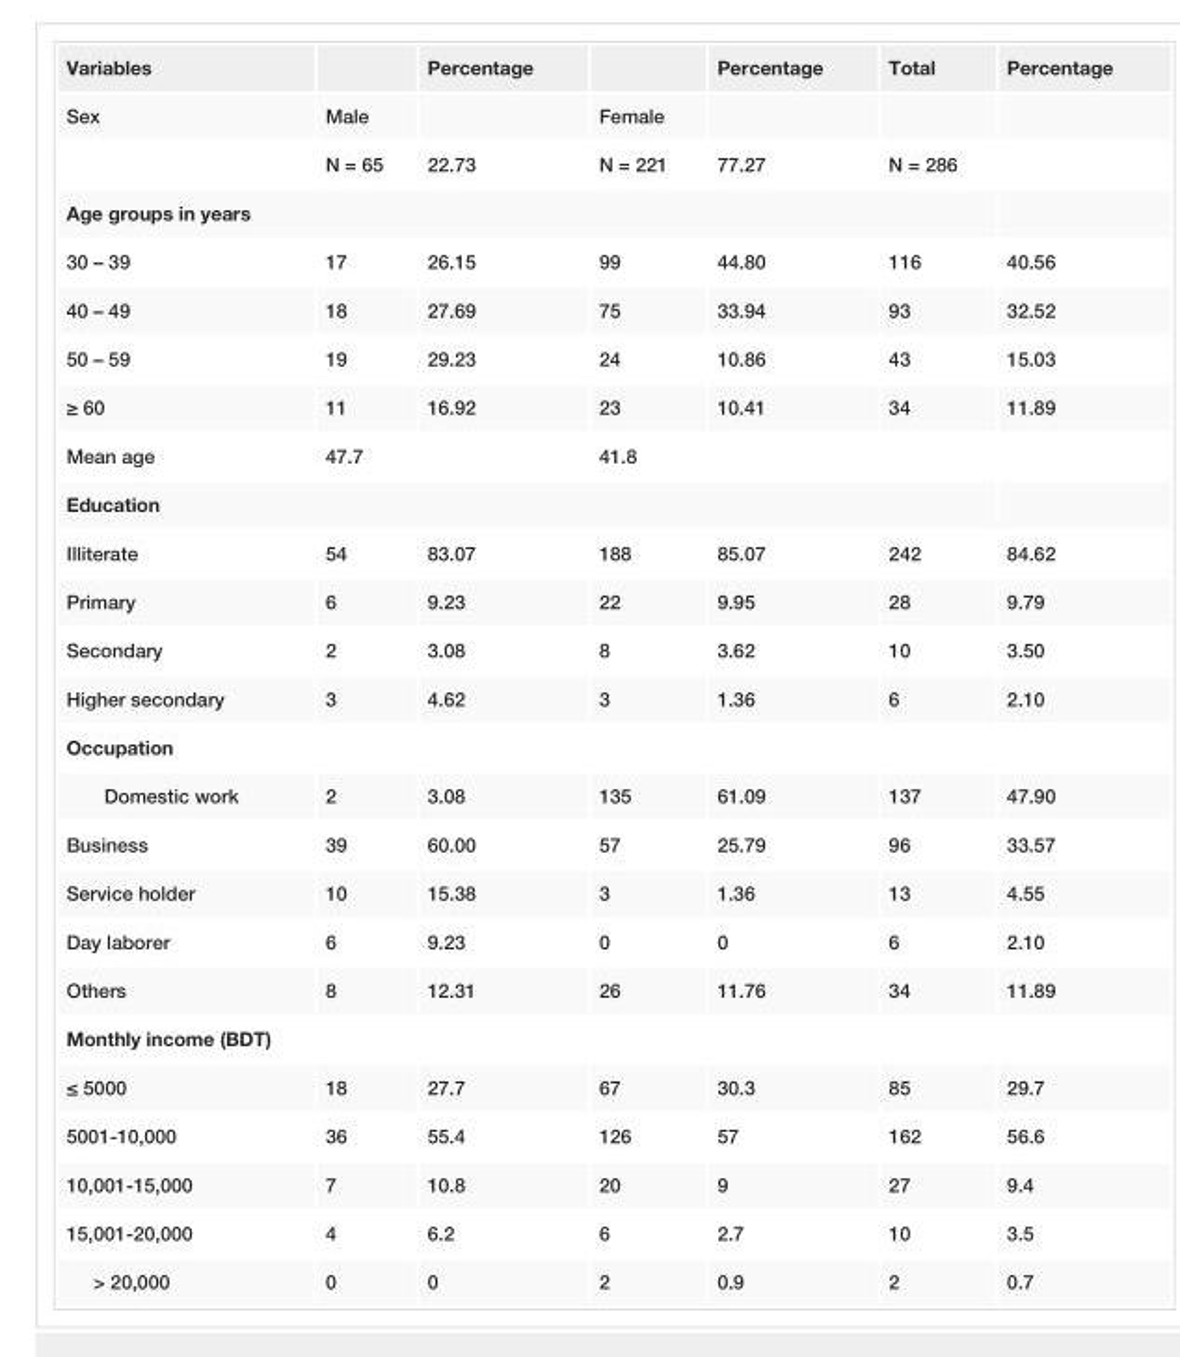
<table><tbody><tr><td>Variables</td><td></td><td>Percentage</td><td></td><td>Percentage</td><td>Total</td><td>Percentage</td></tr><tr><td rowspan="2">Sex</td><td>Male</td><td></td><td>Female</td><td></td><td></td><td></td></tr><tr><td>N = 65</td><td>22.73</td><td>N = 221</td><td>77.27</td><td>N = 286</td><td></td></tr><tr><td colspan="7">Age groups in years</td></tr><tr><td>30 – 39</td><td>17</td><td>26.15</td><td>99</td><td>44.80</td><td>116</td><td>40.56</td></tr><tr><td>40 – 49</td><td>18</td><td>27.69</td><td>75</td><td>33.94</td><td>93</td><td>32.52</td></tr><tr><td>50 – 59</td><td>19</td><td>29.23</td><td>24</td><td>10.86</td><td>43</td><td>15.03</td></tr><tr><td>≥ 60</td><td>11</td><td>16.92</td><td>23</td><td>10.41</td><td>34</td><td>11.89</td></tr><tr><td>Mean age</td><td>47.7</td><td></td><td>41.8</td><td></td><td></td><td></td></tr><tr><td colspan="7">Education</td></tr><tr><td>Illiterate</td><td>54</td><td>83.07</td><td>188</td><td>85.07</td><td>242</td><td>84.62</td></tr><tr><td>Primary</td><td>6</td><td>9.23</td><td>22</td><td>9.95</td><td>28</td><td>9.79</td></tr><tr><td>Secondary</td><td>2</td><td>3.08</td><td>8</td><td>3.62</td><td>10</td><td>3.50</td></tr><tr><td>Higher secondary</td><td>3</td><td>4.62</td><td>3</td><td>1.36</td><td>6</td><td>2.10</td></tr><tr><td colspan="7">Occupation</td></tr><tr><td>Domestic work</td><td>2</td><td>3.08</td><td>135</td><td>61.09</td><td>137</td><td>47.90</td></tr><tr><td>Business</td><td>39</td><td>60.00</td><td>57</td><td>25.79</td><td>96</td><td>33.57</td></tr><tr><td>Service holder</td><td>10</td><td>15.38</td><td>3</td><td>1.36</td><td>13</td><td>4.55</td></tr><tr><td>Day laborer</td><td>6</td><td>9.23</td><td>0</td><td>0</td><td>6</td><td>2.10</td></tr><tr><td>Others</td><td>8</td><td>12.31</td><td>26</td><td>11.76</td><td>34</td><td>11.89</td></tr><tr><td colspan="7">Monthly income (BDT)</td></tr><tr><td>≤ 5000</td><td>18</td><td>27.7</td><td>67</td><td>30.3</td><td>85</td><td>29.7</td></tr><tr><td>5001-10,000</td><td>36</td><td>55.4</td><td>126</td><td>57</td><td>162</td><td>56.6</td></tr><tr><td>10,001-15,000</td><td>7</td><td>10.8</td><td>20</td><td>9</td><td>27</td><td>9.4</td></tr><tr><td>15,001-20,000</td><td>4</td><td>6.2</td><td>6</td><td>2.7</td><td>10</td><td>3.5</td></tr><tr><td>&gt; 20,000</td><td>0</td><td>0</td><td>2</td><td>0.9</td><td>2</td><td>0.7</td></tr></tbody></table>